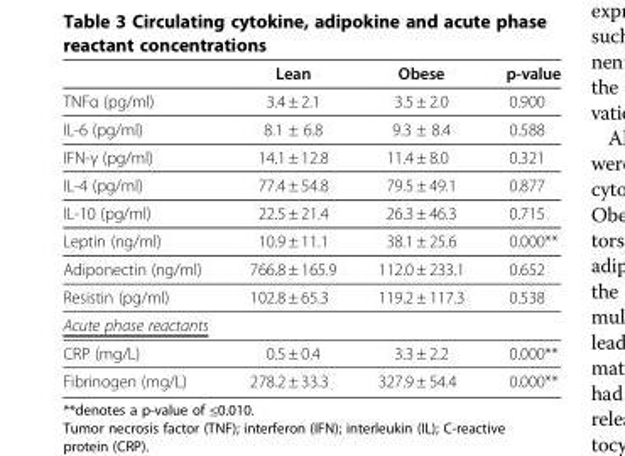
<table><thead><tr><td></td><td>Lean</td><td>Obese</td><td>p-value</td></tr></thead><tbody><tr><td>TNFα (pg/ml)</td><td>3.4 ± 2.1</td><td>3.5 ± 2.0</td><td>0.900</td></tr><tr><td>IL-6 (pg/ml)</td><td>8.1 ± 6.8</td><td>9.3 ± 8.4</td><td>0.588</td></tr><tr><td>IFN-γ (pg/ml)</td><td>14.1 ± 12.8</td><td>11.4 ± 8.0</td><td>0.321</td></tr><tr><td>IL-4 (pg/ml)</td><td>77.4 ± 54.8</td><td>79.5 ± 49.1</td><td>0.877</td></tr><tr><td>IL-10 (pg/ml)</td><td>22.5 ± 21.4</td><td>26.3 ± 46.3</td><td>0.715</td></tr><tr><td>Leptin (ng/ml)</td><td>10.9 ± 11.1</td><td>38.1 ± 25.6</td><td>0.000**</td></tr><tr><td>Adiponectin (ng/ml)</td><td>766.8 ± 165.9</td><td>112.0 ± 233.1</td><td>0.652</td></tr><tr><td>Resistin (pg/ml)</td><td>102.8 ± 65.3</td><td>119.2 ± 117.3</td><td>0.538</td></tr><tr><td colspan="4">Acute phase reactants</td></tr><tr><td>CRP (mg/L)</td><td>0.5 ± 0.4</td><td>3.3 ± 2.2</td><td>0.000**</td></tr><tr><td>Fibrinogen (mg/L)</td><td>278.2 ± 33.3</td><td>327.9 ± 54.4</td><td>0.000**</td></tr></tbody></table>